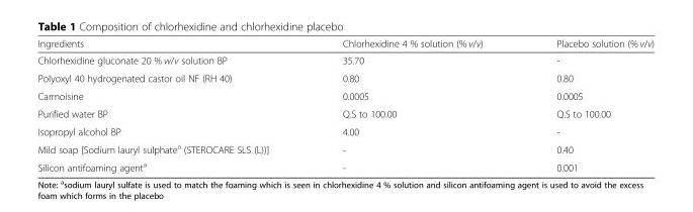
<table><thead><tr><td>Ingredients</td><td>Chlorhexidine 4 % solution (% v/v)</td><td>Placebo solution (% v/v)</td></tr></thead><tbody><tr><td>Chlorhexidine gluconate 20 % w/v solution BP</td><td>35.70</td><td>-</td></tr><tr><td>Polyoxyl 40 hydrogenated castor oil NF (RH 40)</td><td>0.80</td><td>0.80</td></tr><tr><td>Carmoisine</td><td>0.0005</td><td>0.0005</td></tr><tr><td>Purified water BP</td><td>Q.S to 100.00</td><td>Q.S to 100.00</td></tr><tr><td>Isopropyl alcohol BP</td><td>4.00</td><td>-</td></tr><tr><td>Mild soap [Sodium lauryl sulphate<sup>a</sup> (STEROCARE SLS (L))]</td><td>-</td><td>0.40</td></tr><tr><td>Silicon antifoaming agent<sup>a</sup></td><td>-</td><td>0.001</td></tr></tbody></table>